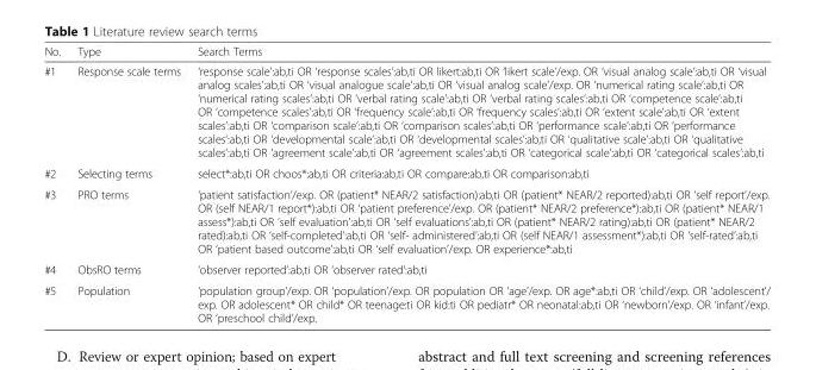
<table><thead><tr><td>No.</td><td>Type</td><td>Search Terms</td></tr></thead><tbody><tr><td>#1</td><td>Response scale terms</td><td>‘response scale’:ab,ti OR ‘response scales’:ab,ti OR likert:ab,ti OR ‘likert scale’/exp. OR ‘visual analog scale’:ab,ti OR ‘visual analog scales’:ab,ti OR ‘visual analogue scale’:ab,ti OR ‘visual analog scale’/exp. OR ‘numerical rating scale’:ab,ti OR ‘numerical rating scales’:ab,ti OR ‘verbal rating scale’:ab,ti OR ‘verbal rating scales’:ab,ti OR ‘competence scale’:ab,ti OR ‘competence scales’:ab,ti OR ‘frequency scale’:ab,ti OR ‘frequency scales’:ab,ti OR ‘extent scale’:ab,ti OR ‘extent scales’:ab,ti OR ‘comparison scale’:ab,ti OR ‘comparison scales’:ab,ti OR ‘performance scale’:ab,ti OR ‘performance scales’:ab,ti OR ‘developmental scale’:ab,ti OR ‘developmental scales’:ab,ti OR ‘qualitative scale’:ab,ti OR ‘qualitative scales’:ab,ti OR ‘agreement scale’:ab,ti OR ‘agreement scales’:ab,ti OR ‘categorical scale’:ab,ti OR ‘categorical scales’:ab,ti</td></tr><tr><td>#2</td><td>Selecting terms</td><td>select*:ab,ti OR choos*:ab,ti OR criteria:ab,ti OR compare:ab,ti OR comparison:ab,ti</td></tr><tr><td>#3</td><td>PRO terms</td><td>‘patient satisfaction’/exp. OR (patient* NEAR/2 satisfaction):ab,ti OR (patient* NEAR/2 reported):ab,ti OR ‘self report’/exp. OR (self NEAR/1 report*):ab,ti OR ‘patient preference’/exp. OR (patient* NEAR/2 preference*):ab,ti OR (patient* NEAR/1 assess*):ab,ti OR ‘self evaluation’:ab,ti OR ‘self evaluations’:ab,ti OR (patient* NEAR/2 rating):ab,ti OR (patient* NEAR/2 rated):ab,ti OR ‘self-completed’:ab,ti OR ‘self- administered’:ab,ti OR (self NEAR/1 assessment*):ab,ti OR ‘self-rated’:ab,ti OR ‘patient based outcome’:ab,ti OR ‘self evaluation’/exp. OR experience*:ab,ti</td></tr><tr><td>#4</td><td>ObsRO terms</td><td>‘observer reported’:ab,ti OR ‘observer rated’:ab,ti</td></tr><tr><td>#5</td><td>Population</td><td>‘population group’/exp. OR ‘population’/exp. OR population OR ‘age’/exp. OR age*:ab,ti OR ‘child’/exp. OR ‘adolescent’/ exp. OR adolescent* OR child* OR teenage:ti OR kid:ti OR pediatr* OR neonatal:ab,ti OR ‘newborn’/exp. OR ‘infant’/exp. OR ‘preschool child’/exp.</td></tr></tbody></table>